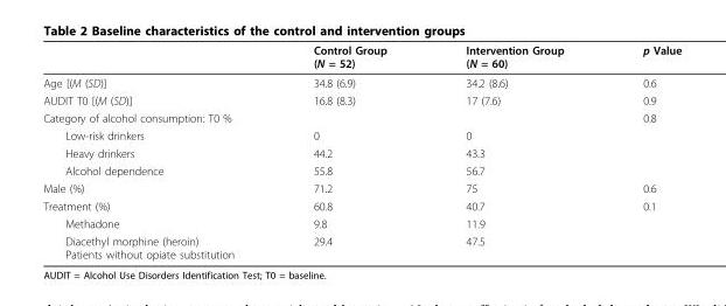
<table><thead><tr><td></td><td>Control Group (N = 52)</td><td>Intervention Group (N = 60)</td><td>p Value</td></tr></thead><tbody><tr><td>Age [(M (SD)]</td><td>34.8 (6.9)</td><td>34.2 (8.6)</td><td>0.6</td></tr><tr><td>AUDIT T0 [(M (SD)]</td><td>16.8 (8.3)</td><td>17 (7.6)</td><td>0.9</td></tr><tr><td>Category of alcohol consumption: T0 %</td><td></td><td></td><td>0.8</td></tr><tr><td>Low-risk drinkers</td><td>0</td><td>0</td><td></td></tr><tr><td>Heavy drinkers</td><td>44.2</td><td>43.3</td><td></td></tr><tr><td>Alcohol dependence</td><td>55.8</td><td>56.7</td><td></td></tr><tr><td>Male (%)</td><td>71.2</td><td>75</td><td>0.6</td></tr><tr><td>Treatment (%)</td><td>60.8</td><td>40.7</td><td>0.1</td></tr><tr><td>Methadone</td><td>9.8</td><td>11.9</td><td></td></tr><tr><td>Diacethyl morphine (heroin) Patients without opiate substitution</td><td>29.4</td><td>47.5</td><td></td></tr></tbody></table>